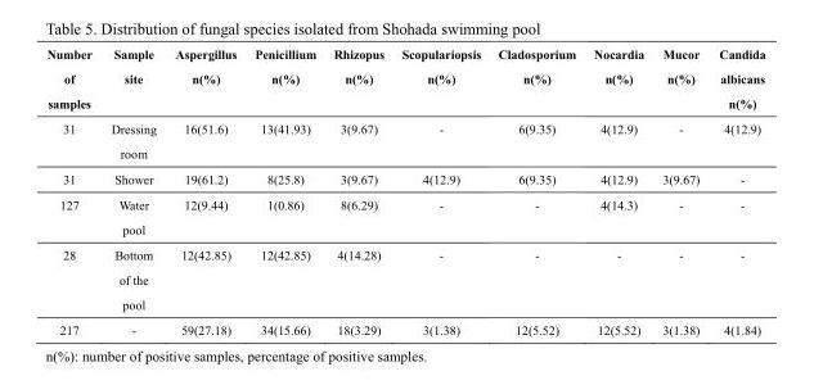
<table><thead><tr><td>Number of samples</td><td>Sample site</td><td>Aspergillus n(%)</td><td>Penicillium n(%)</td><td>Rhizopus n(%)</td><td>Scopulariopsis n(%)</td><td>Cladosporium n(%)</td><td>Nocardia n(%)</td><td>Mucor n(%)</td><td>Candida albicans n(%)</td></tr></thead><tbody><tr><td>31</td><td>Dressing room</td><td>16(51.6)</td><td>13(41.93)</td><td>3(9.67)</td><td>-</td><td>6(9.35)</td><td>4(12.9)</td><td>-</td><td>4(12.9)</td></tr><tr><td>31</td><td>Shower</td><td>19(61.2)</td><td>8(25.8)</td><td>3(9.67)</td><td>4(12.9)</td><td>6(9.35)</td><td>4(12.9)</td><td>3(9.67)</td><td>-</td></tr><tr><td>127</td><td>Water pool</td><td>12(9.44)</td><td>1(0.86)</td><td>8(6.29)</td><td>-</td><td>-</td><td>4(14.3)</td><td>-</td><td>-</td></tr><tr><td>28</td><td>Bottom of the pool</td><td>12(42.85)</td><td>12(42.85)</td><td>4(14.28)</td><td>-</td><td>-</td><td>-</td><td>-</td><td>-</td></tr><tr><td>217</td><td>-</td><td>59(27.18)</td><td>34(15.66)</td><td>18(3.29)</td><td>3(1.38)</td><td>12(5.52)</td><td>12(5.52)</td><td>3(1.38)</td><td>4(1.84)</td></tr></tbody></table>